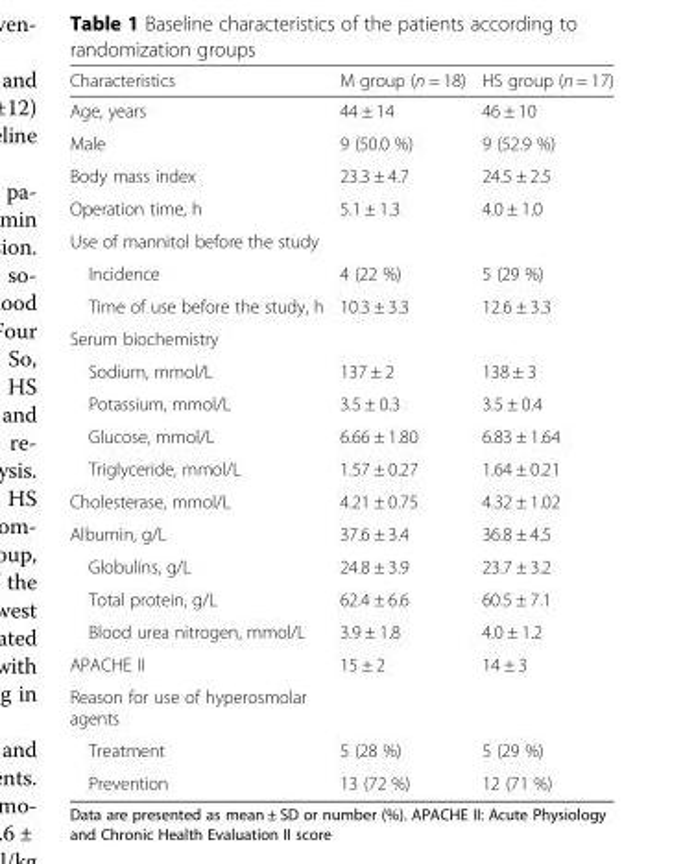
<table><thead><tr><td>Characteristics</td><td>M group (n = 18)</td><td>HS group (n = 17)</td></tr></thead><tbody><tr><td>Age, years</td><td>44 ± 14</td><td>46 ± 10</td></tr><tr><td>Male</td><td>9 (50.0 %)</td><td>9 (52.9 %)</td></tr><tr><td>Body mass index</td><td>23.3 ± 4.7</td><td>24.5 ± 2.5</td></tr><tr><td>Operation time, h</td><td>5.1 ± 1.3</td><td>4.0 ± 1.0</td></tr><tr><td colspan="3">Use of mannitol before the study</td></tr><tr><td>Incidence</td><td>4 (22 %)</td><td>5 (29 %)</td></tr><tr><td>Time of use before the study, h</td><td>10.3 ± 3.3</td><td>12.6 ± 3.3</td></tr><tr><td colspan="3">Serum biochemistry</td></tr><tr><td>Sodium, mmol/L</td><td>137 ± 2</td><td>138 ± 3</td></tr><tr><td>Potassium, mmol/L</td><td>3.5 ± 0.3</td><td>3.5 ± 0.4</td></tr><tr><td>Glucose, mmol/L</td><td>6.66 ± 1.80</td><td>6.83 ± 1.64</td></tr><tr><td>Triglyceride, mmol/L</td><td>1.57 ± 0.27</td><td>1.64 ± 0.21</td></tr><tr><td>Cholesterase, mmol/L</td><td>4.21 ± 0.75</td><td>4.32 ± 1.02</td></tr><tr><td>Albumin, g/L</td><td>37.6 ± 3.4</td><td>36.8 ± 4.5</td></tr><tr><td>Globulins, g/L</td><td>24.8 ± 3.9</td><td>23.7 ± 3.2</td></tr><tr><td>Total protein, g/L</td><td>62.4 ± 6.6</td><td>60.5 ± 7.1</td></tr><tr><td>Blood urea nitrogen, mmol/L</td><td>3.9 ± 1.8</td><td>4.0 ± 1.2</td></tr><tr><td>APACHE II</td><td>15 ± 2</td><td>14 ± 3</td></tr><tr><td colspan="3">Reason for use of hyperosmolar agents</td></tr><tr><td>Treatment</td><td>5 (28 %)</td><td>5 (29 %)</td></tr><tr><td>Prevention</td><td>13 (72 %)</td><td>12 (71 %)</td></tr></tbody></table>